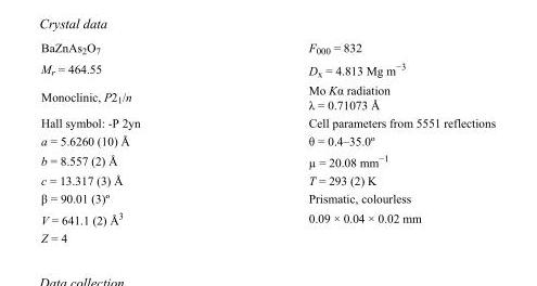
<table><tbody><tr><td>BaZnAs<sub>2</sub>O<sub>7</sub></td><td>F<sub>000</sub> = 832</td></tr><tr><td>M<sub>r</sub> = 464.55</td><td>D<sub>x</sub> = 4.813 Mg m<sup>−3</sup></td></tr><tr><td>Monoclinic, P2<sub>1</sub>/n</td><td>Mo Kα radiation λ = 0.71073 Å</td></tr><tr><td>Hall symbol: -P 2yn</td><td>Cell parameters from 5551 reflections</td></tr><tr><td>a = 5.6260 (10) Å</td><td>θ = 0.4–35.0º</td></tr><tr><td>b = 8.557 (2) Å</td><td>µ = 20.08 mm<sup>−1</sup></td></tr><tr><td>c = 13.317 (3) Å</td><td>T = 293 (2) K</td></tr><tr><td>β = 90.01 (3)º</td><td>Prismatic, colourless</td></tr><tr><td>V = 641.1 (2) Å<sup>3</sup></td><td>0.09 × 0.04 × 0.02 mm</td></tr><tr><td>Z = 4</td><td></td></tr></tbody></table>